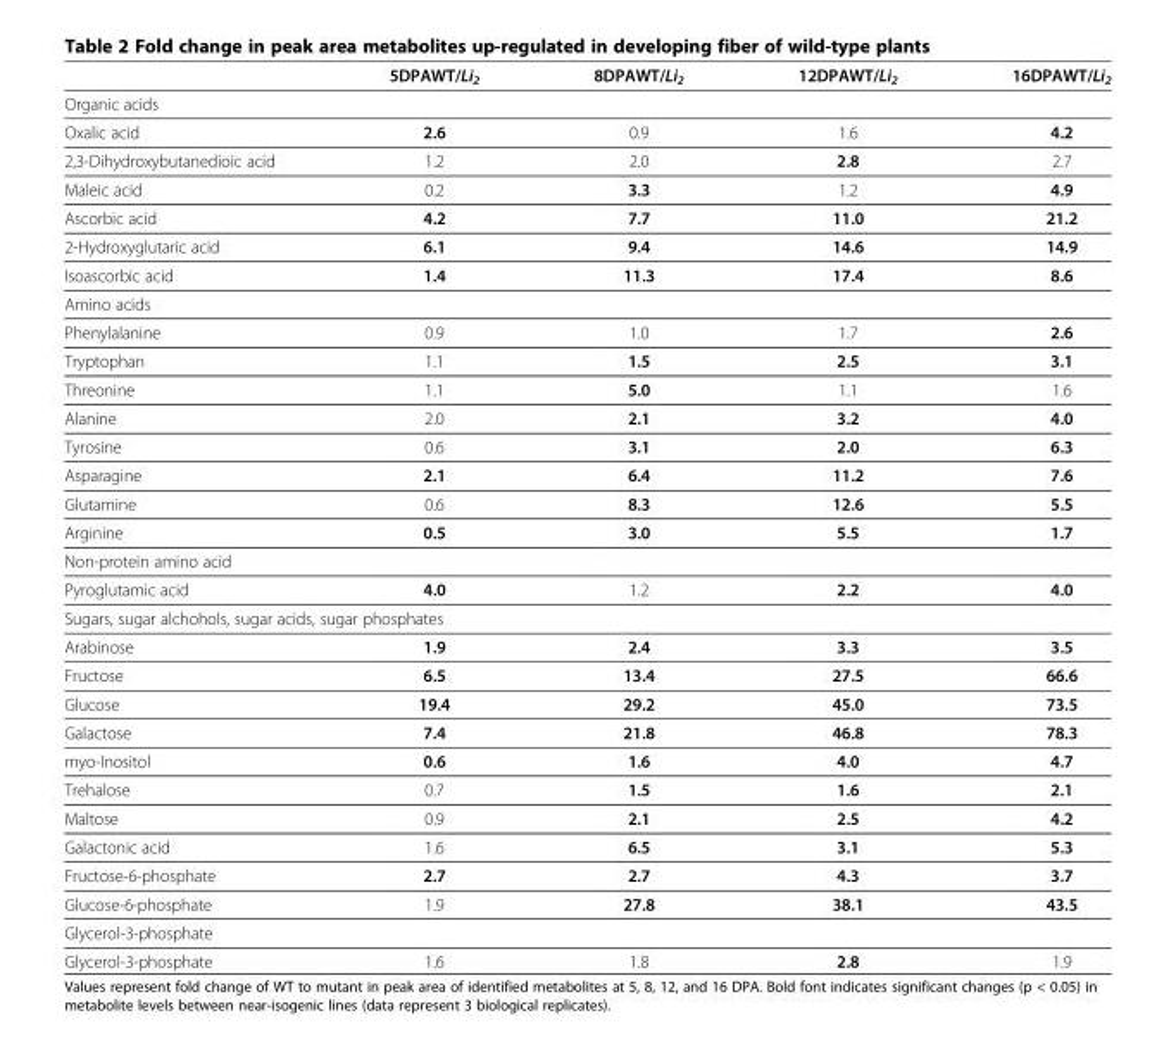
<table><thead><tr><td></td><td>5DPAWT/Li<sub>2</sub></td><td>8DPAWT/Li<sub>2</sub></td><td>12DPAWT/Li<sub>2</sub></td><td>16DPAWT/Li<sub>2</sub></td></tr></thead><tbody><tr><td colspan="5">Organic acids</td></tr><tr><td>Oxalic acid</td><td>2.6</td><td>0.9</td><td>1.6</td><td>4.2</td></tr><tr><td>2,3-Dihydroxybutanedioic acid</td><td>1.2</td><td>2.0</td><td>2.8</td><td>2.7</td></tr><tr><td>Maleic acid</td><td>0.2</td><td>3.3</td><td>1.2</td><td>4.9</td></tr><tr><td>Ascorbic acid</td><td>4.2</td><td>7.7</td><td>11.0</td><td>21.2</td></tr><tr><td>2-Hydroxyglutaric acid</td><td>6.1</td><td>9.4</td><td>14.6</td><td>14.9</td></tr><tr><td>Isoascorbic acid</td><td>1.4</td><td>11.3</td><td>17.4</td><td>8.6</td></tr><tr><td colspan="5">Amino acids</td></tr><tr><td>Phenylalanine</td><td>0.9</td><td>1.0</td><td>1.7</td><td>2.6</td></tr><tr><td>Tryptophan</td><td>1.1</td><td>1.5</td><td>2.5</td><td>3.1</td></tr><tr><td>Threonine</td><td>1.1</td><td>5.0</td><td>1.1</td><td>1.6</td></tr><tr><td>Alanine</td><td>2.0</td><td>2.1</td><td>3.2</td><td>4.0</td></tr><tr><td>Tyrosine</td><td>0.6</td><td>3.1</td><td>2.0</td><td>6.3</td></tr><tr><td>Asparagine</td><td>2.1</td><td>6.4</td><td>11.2</td><td>7.6</td></tr><tr><td>Glutamine</td><td>0.6</td><td>8.3</td><td>12.6</td><td>5.5</td></tr><tr><td>Arginine</td><td>0.5</td><td>3.0</td><td>5.5</td><td>1.7</td></tr><tr><td colspan="5">Non-protein amino acid</td></tr><tr><td>Pyroglutamic acid</td><td>4.0</td><td>1.2</td><td>2.2</td><td>4.0</td></tr><tr><td colspan="5">Sugars, sugar alchohols, sugar acids, sugar phosphates</td></tr><tr><td>Arabinose</td><td>1.9</td><td>2.4</td><td>3.3</td><td>3.5</td></tr><tr><td>Fructose</td><td>6.5</td><td>13.4</td><td>27.5</td><td>66.6</td></tr><tr><td>Glucose</td><td>19.4</td><td>29.2</td><td>45.0</td><td>73.5</td></tr><tr><td>Galactose</td><td>7.4</td><td>21.8</td><td>46.8</td><td>78.3</td></tr><tr><td>myo-Inositol</td><td>0.6</td><td>1.6</td><td>4.0</td><td>4.7</td></tr><tr><td>Trehalose</td><td>0.7</td><td>1.5</td><td>1.6</td><td>2.1</td></tr><tr><td>Maltose</td><td>0.9</td><td>2.1</td><td>2.5</td><td>4.2</td></tr><tr><td>Galactonic acid</td><td>1.6</td><td>6.5</td><td>3.1</td><td>5.3</td></tr><tr><td>Fructose-6-phosphate</td><td>2.7</td><td>2.7</td><td>4.3</td><td>3.7</td></tr><tr><td>Glucose-6-phosphate</td><td>1.9</td><td>27.8</td><td>38.1</td><td>43.5</td></tr><tr><td colspan="5">Glycerol-3-phosphate</td></tr><tr><td>Glycerol-3-phosphate</td><td>1.6</td><td>1.8</td><td>2.8</td><td>1.9</td></tr></tbody></table>